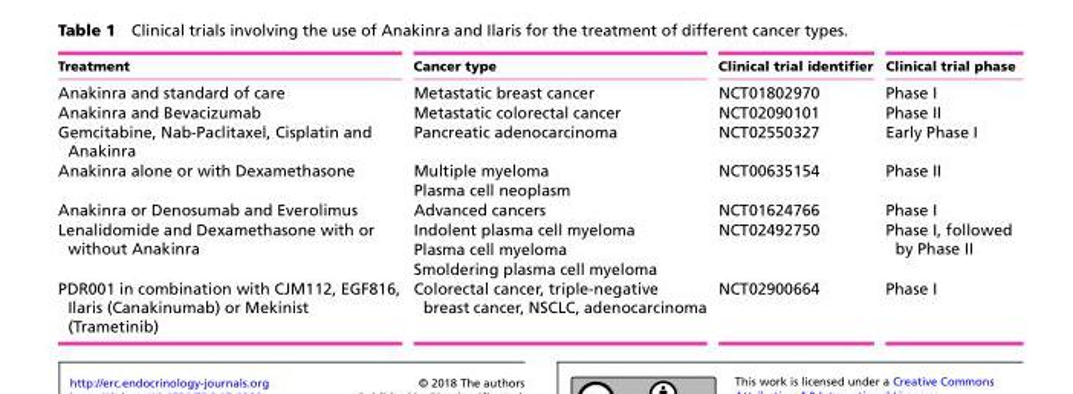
<table><thead><tr><td>Treatment</td><td>Cancer type</td><td>Clinical trial identifier</td><td>Clinical trial phase</td></tr></thead><tbody><tr><td>Anakinra and standard of care</td><td>Metastatic breast cancer</td><td>NCT01802970</td><td>Phase I</td></tr><tr><td>Anakinra and Bevacizumab</td><td>Metastatic colorectal cancer</td><td>NCT02090101</td><td>Phase II</td></tr><tr><td>Gemcitabine, Nab-Paclitaxel, Cisplatin and Anakinra</td><td>Pancreatic adenocarcinoma</td><td>NCT02550327</td><td>Early Phase I</td></tr><tr><td rowspan="2">Anakinra alone or with Dexamethasone</td><td>Multiple myeloma</td><td rowspan="2">NCT00635154</td><td rowspan="2">Phase II</td></tr><tr><td>Plasma cell neoplasm</td></tr><tr><td>Anakinra or Denosumab and Everolimus</td><td>Advanced cancers</td><td>NCT01624766</td><td>Phase I</td></tr><tr><td rowspan="3">Lenalidomide and Dexamethasone with or without Anakinra</td><td>Indolent plasma cell myeloma</td><td rowspan="3">NCT02492750</td><td rowspan="3">Phase I, followed by Phase II</td></tr><tr><td>Plasma cell myeloma</td></tr><tr><td>Smoldering plasma cell myeloma</td></tr><tr><td>PDR001 in combination with CJM112, EGF816, Ilaris (Canakinumab) or Mekinist (Trametinib)</td><td>Colorectal cancer, triple-negative breast cancer, NSCLC, adenocarcinoma</td><td>NCT02900664</td><td>Phase I</td></tr></tbody></table>